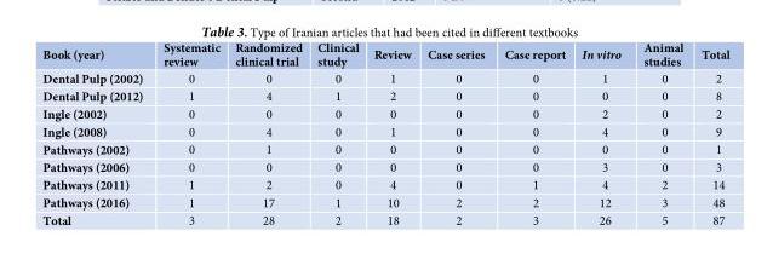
<table><thead><tr><td>Book (year)</td><td>Systematic review</td><td>Randomized clinical trial</td><td>Clinical study</td><td>Review</td><td>Case series</td><td>Case report</td><td>In vitro</td><td>Animal studies</td><td>Total</td></tr></thead><tbody><tr><td>Dental Pulp (2002)</td><td>0</td><td>0</td><td>0</td><td>1</td><td>0</td><td>0</td><td>1</td><td>0</td><td>2</td></tr><tr><td>Dental Pulp (2012)</td><td>1</td><td>4</td><td>1</td><td>2</td><td>0</td><td>0</td><td>0</td><td>0</td><td>8</td></tr><tr><td>Ingle (2002)</td><td>0</td><td>0</td><td>0</td><td>0</td><td>0</td><td>0</td><td>2</td><td>0</td><td>2</td></tr><tr><td>Ingle (2008)</td><td>0</td><td>4</td><td>0</td><td>1</td><td>0</td><td>0</td><td>4</td><td>0</td><td>9</td></tr><tr><td>Pathways (2002)</td><td>0</td><td>1</td><td>0</td><td>0</td><td>0</td><td>0</td><td>0</td><td>0</td><td>1</td></tr><tr><td>Pathways (2006)</td><td>0</td><td>0</td><td>0</td><td>0</td><td>0</td><td>0</td><td>3</td><td>0</td><td>3</td></tr><tr><td>Pathways (2011)</td><td>1</td><td>2</td><td>0</td><td>4</td><td>0</td><td>1</td><td>4</td><td>2</td><td>14</td></tr><tr><td>Pathways (2016)</td><td>1</td><td>17</td><td>1</td><td>10</td><td>2</td><td>2</td><td>12</td><td>3</td><td>48</td></tr><tr><td>Total</td><td>3</td><td>28</td><td>2</td><td>18</td><td>2</td><td>3</td><td>26</td><td>5</td><td>87</td></tr></tbody></table>